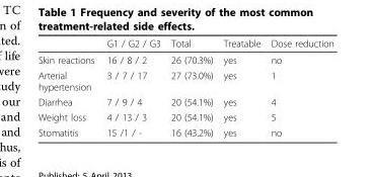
<table><thead><tr><td></td><td>G1 / G2 / G3</td><td>Total</td><td>Treatable</td><td>Dose reduction</td></tr></thead><tbody><tr><td>Skin reactions</td><td>16 / 8 / 2</td><td>26 (70.3%)</td><td>yes</td><td>no</td></tr><tr><td>Arterial hypertension</td><td>3 / 7 / 17</td><td>27 (73.0%)</td><td>yes</td><td>1</td></tr><tr><td>Diarrhea</td><td>7 / 9 / 4</td><td>20 (54.1%)</td><td>yes</td><td>4</td></tr><tr><td>Weight loss</td><td>4 / 13 / 3</td><td>20 (54.1%)</td><td>yes</td><td>5</td></tr><tr><td>Stomatitis</td><td>15 /1 / -</td><td>16 (43.2%)</td><td>yes</td><td>no</td></tr></tbody></table>